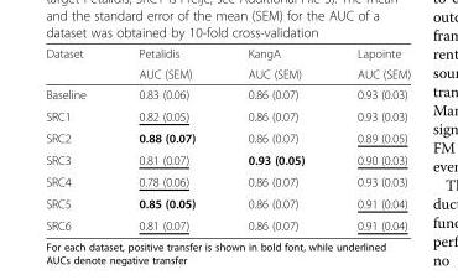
<table><thead><tr><td rowspan="2">Dataset</td><td rowspan="2">Petalidis AUC (SEM)</td><td rowspan="2">KangA AUC (SEM)</td><td rowspan="2">Lapointe AUC (SEM)</td></tr><tr></tr></thead><tbody><tr><td>Baseline</td><td>0.83 (0.06)</td><td>0.86 (0.07)</td><td>0.93 (0.03)</td></tr><tr><td>SRC1</td><td>0.82 (0.05)</td><td>0.86 (0.07)</td><td>0.93 (0.03)</td></tr><tr><td>SRC2</td><td>0.88 (0.07)</td><td>0.86 (0.07)</td><td>0.89 (0.05)</td></tr><tr><td>SRC3</td><td>0.81 (0.07)</td><td>0.93 (0.05)</td><td>0.90 (0.03)</td></tr><tr><td>SRC4</td><td>0.78 (0.06)</td><td>0.86 (0.07)</td><td>0.93 (0.03)</td></tr><tr><td>SRC5</td><td>0.85 (0.05)</td><td>0.86 (0.07)</td><td>0.91 (0.04)</td></tr><tr><td>SRC6</td><td>0.81 (0.07)</td><td>0.86 (0.07)</td><td>0.91 (0.04)</td></tr></tbody></table>